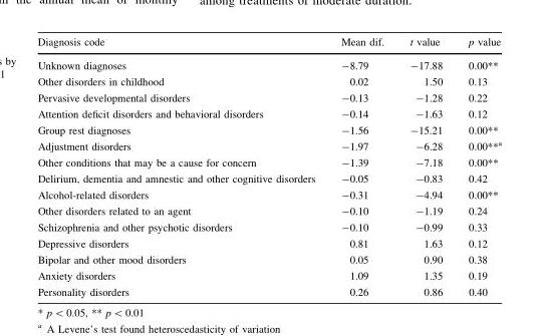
<table><thead><tr><td>Diagnosis code</td><td>Mean dif.</td><td>t value</td><td>p value</td></tr></thead><tbody><tr><td>Unknown diagnoses</td><td>-8.79</td><td>-17.88</td><td>0.00**</td></tr><tr><td>Other disorders in childhood</td><td>0.02</td><td>1.50</td><td>0.13</td></tr><tr><td>Pervasive developmental disorders</td><td>-0.13</td><td>-1.28</td><td>0.22</td></tr><tr><td>Attention deficit disorders and behavioral disorders</td><td>-0.14</td><td>-1.63</td><td>0.12</td></tr><tr><td>Group rest diagnoses</td><td>-1.56</td><td>-15.21</td><td>0.00**</td></tr><tr><td>Adjustment disorders</td><td>-1.97</td><td>-6.28</td><td>0.00**<sup>a</sup></td></tr><tr><td>Other conditions that may be a cause for concern</td><td>-1.39</td><td>-7.18</td><td>0.00**</td></tr><tr><td>Delirium, dementia and amnestic and other cognitive disorders</td><td>-0.05</td><td>-0.83</td><td>0.42</td></tr><tr><td>Alcohol-related disorders</td><td>-0.31</td><td>-4.94</td><td>0.00**</td></tr><tr><td>Other disorders related to an agent</td><td>-0.10</td><td>-1.19</td><td>0.24</td></tr><tr><td>Schizophrenia and other psychotic disorders</td><td>-0.10</td><td>-0.99</td><td>0.33</td></tr><tr><td>Depressive disorders</td><td>0.81</td><td>1.63</td><td>0.12</td></tr><tr><td>Bipolar and other mood disorders</td><td>0.05</td><td>0.90</td><td>0.38</td></tr><tr><td>Anxiety disorders</td><td>1.09</td><td>1.35</td><td>0.19</td></tr><tr><td>Personality disorders</td><td>0.26</td><td>0.86</td><td>0.40</td></tr></tbody></table>